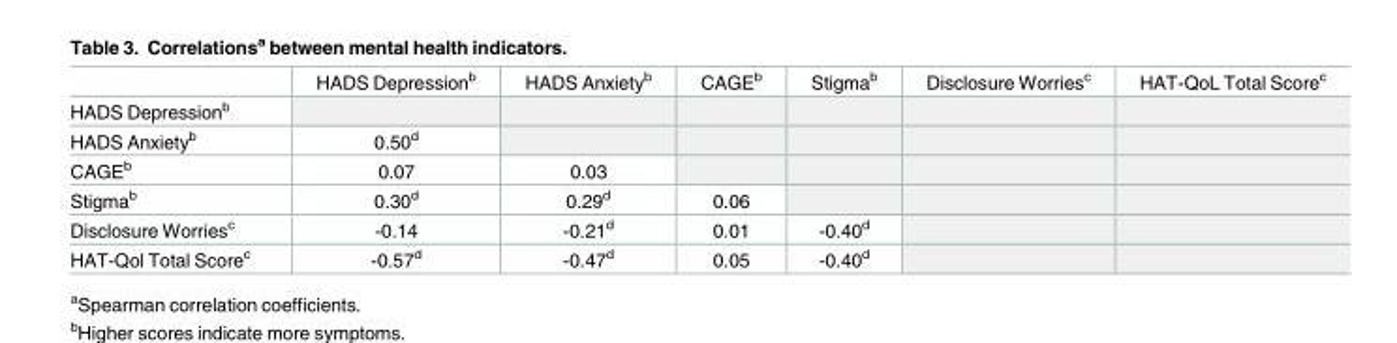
<table><thead><tr><td></td><td>HADS Depression<sup>b</sup></td><td>HADS Anxiety<sup>b</sup></td><td>CAGE<sup>b</sup></td><td>Stigma<sup>b</sup></td><td>Disclosure Worries<sup>c</sup></td><td>HAT-QoL Total Score<sup>c</sup></td></tr></thead><tbody><tr><td colspan="7">HADS Depression<sup>b</sup></td></tr><tr><td>HADS Anxiety<sup>b</sup></td><td>0.50<sup>d</sup></td><td></td><td></td><td></td><td></td><td></td></tr><tr><td>CAGE<sup>b</sup></td><td>0.07</td><td>0.03</td><td></td><td></td><td></td><td></td></tr><tr><td>Stigma<sup>b</sup></td><td>0.30<sup>d</sup></td><td>0.29<sup>d</sup></td><td>0.06</td><td></td><td></td><td></td></tr><tr><td>Disclosure Worries<sup>c</sup></td><td>-0.14</td><td>-0.21<sup>d</sup></td><td>0.01</td><td>-0.40<sup>d</sup></td><td></td><td></td></tr><tr><td>HAT-Qol Total Score<sup>c</sup></td><td>-0.57<sup>d</sup></td><td>-0.47<sup>d</sup></td><td>0.05</td><td>-0.40<sup>d</sup></td><td></td><td></td></tr></tbody></table>